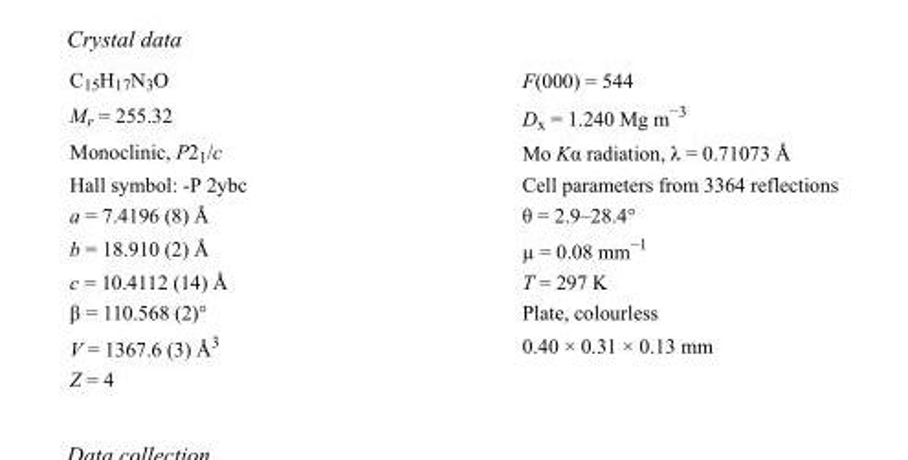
<table><tbody><tr><td>C<sub>15</sub>H<sub>17</sub>N<sub>3</sub>O</td><td>F(000) = 544</td></tr><tr><td>M<sub>r</sub> = 255.32</td><td>D<sub>x</sub> = 1.240 Mg m<sup>−3</sup></td></tr><tr><td>Monoclinic, P2<sub>1</sub>/c</td><td>Mo Kα radiation, λ = 0.71073 Å</td></tr><tr><td>Hall symbol: -P 2ybc</td><td>Cell parameters from 3364 reflections</td></tr><tr><td>a = 7.4196 (8) Å</td><td>θ = 2.9–28.4°</td></tr><tr><td>b = 18.910 (2) Å</td><td>µ = 0.08 mm<sup>−1</sup></td></tr><tr><td>c = 10.4112 (14) Å</td><td>T = 297 K</td></tr><tr><td>β = 110.568 (2)°</td><td>Plate, colourless</td></tr><tr><td>V = 1367.6 (3) Å<sup>3</sup></td><td>0.40 × 0.31 × 0.13 mm</td></tr><tr><td>Z = 4</td><td></td></tr></tbody></table>